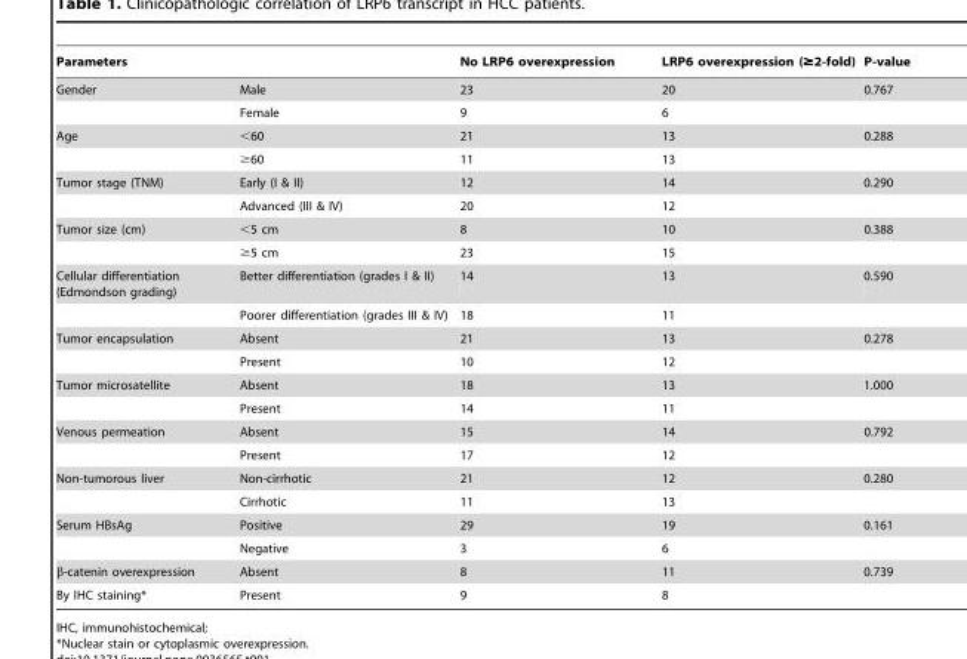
<table><thead><tr><td colspan="2">Parameters</td><td rowspan="2">No LRP6 overexpression 23</td><td rowspan="2">LRP6 overexpression (≥2-fold) 20</td><td rowspan="2">P-value 0.767</td></tr><tr><td>Gender</td><td>Male</td></tr></thead><tbody><tr><td></td><td>Female</td><td>9</td><td>6</td><td></td></tr><tr><td rowspan="2">Age</td><td>&lt;60</td><td>21</td><td>13</td><td>0.288</td></tr><tr><td>≥60</td><td>11</td><td>13</td><td></td></tr><tr><td rowspan="2">Tumor stage (TNM)</td><td>Early (I &amp; II)</td><td>12</td><td>14</td><td>0.290</td></tr><tr><td>Advanced (III &amp; IV)</td><td>20</td><td>12</td><td></td></tr><tr><td rowspan="2">Tumor size (cm)</td><td>&lt;5 cm</td><td>8</td><td>10</td><td>0.388</td></tr><tr><td>≥5 cm</td><td>23</td><td>15</td><td></td></tr><tr><td rowspan="2">Cellular differentiation (Edmondson grading)</td><td>Better differentiation (grades I &amp; II)</td><td>14</td><td>13</td><td>0.590</td></tr><tr><td>Poorer differentiation (grades III &amp; IV)</td><td>18</td><td>11</td><td></td></tr><tr><td rowspan="2">Tumor encapsulation</td><td>Absent</td><td>21</td><td>13</td><td>0.278</td></tr><tr><td>Present</td><td>10</td><td>12</td><td></td></tr><tr><td rowspan="2">Tumor microsatellite</td><td>Absent</td><td>18</td><td>13</td><td>1.000</td></tr><tr><td>Present</td><td>14</td><td>11</td><td></td></tr><tr><td rowspan="2">Venous permeation</td><td>Absent</td><td>15</td><td>14</td><td>0.792</td></tr><tr><td>Present</td><td>17</td><td>12</td><td></td></tr><tr><td rowspan="2">Non-tumorous liver</td><td>Non-cirrhotic</td><td>21</td><td>12</td><td>0.280</td></tr><tr><td>Cirrhotic</td><td>11</td><td>13</td><td></td></tr><tr><td rowspan="2">Serum HBsAg</td><td>Positive</td><td>29</td><td>19</td><td>0.161</td></tr><tr><td>Negative</td><td>3</td><td>6</td><td></td></tr><tr><td>β-catenin overexpression</td><td>Absent</td><td>8</td><td>11</td><td>0.739</td></tr><tr><td>By IHC staining*</td><td>Present</td><td>9</td><td>8</td><td></td></tr></tbody></table>